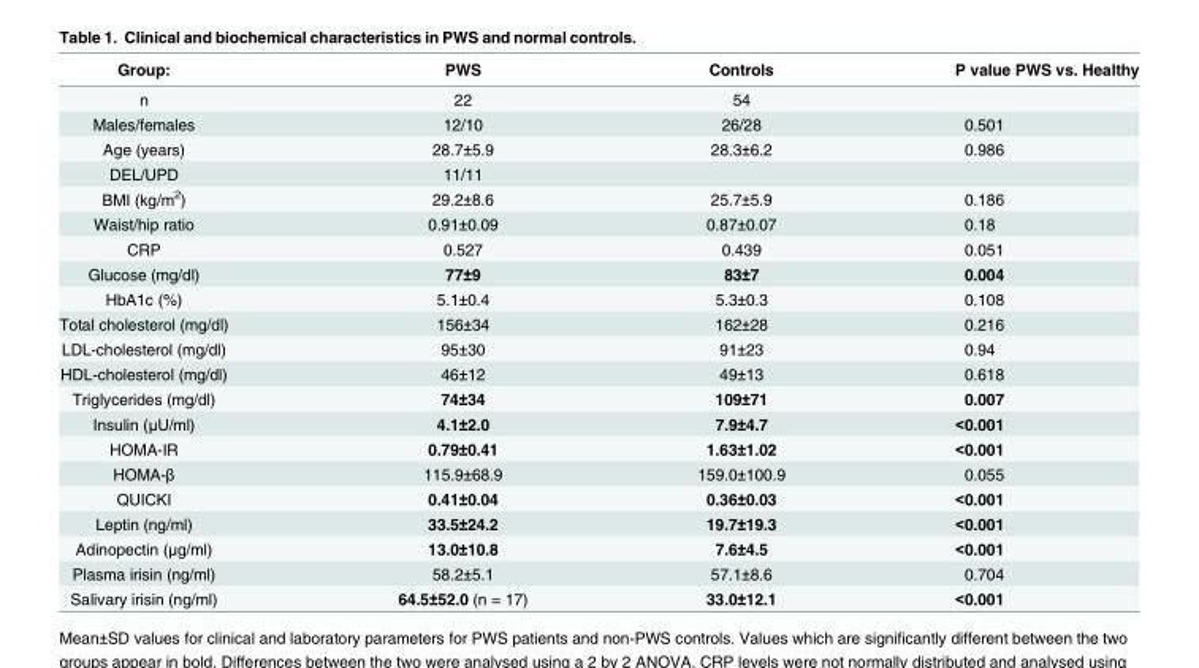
<table><thead><tr><td>Group:</td><td>PWS</td><td>Controls</td><td>P value PWS vs. Healthy</td></tr></thead><tbody><tr><td>n</td><td>22</td><td>54</td><td></td></tr><tr><td>Males/females</td><td>12/10</td><td>26/28</td><td>0.501</td></tr><tr><td>Age (years)</td><td>28.7±5.9</td><td>28.3±6.2</td><td>0.986</td></tr><tr><td>DEL/UPD</td><td>11/11</td><td></td><td></td></tr><tr><td>BMI (kg/m<sup>2</sup>)</td><td>29.2±8.6</td><td>25.7±5.9</td><td>0.186</td></tr><tr><td>Waist/hip ratio</td><td>0.91±0.09</td><td>0.87±0.07</td><td>0.18</td></tr><tr><td>CRP</td><td>0.527</td><td>0.439</td><td>0.051</td></tr><tr><td>Glucose (mg/dl)</td><td>77±9</td><td>83±7</td><td>0.004</td></tr><tr><td>HbA1c (%)</td><td>5.1±0.4</td><td>5.3±0.3</td><td>0.108</td></tr><tr><td>Total cholesterol (mg/dl)</td><td>156±34</td><td>162±28</td><td>0.216</td></tr><tr><td>LDL-cholesterol (mg/dl)</td><td>95±30</td><td>91±23</td><td>0.94</td></tr><tr><td>HDL-cholesterol (mg/dl)</td><td>46±12</td><td>49±13</td><td>0.618</td></tr><tr><td>Triglycerides (mg/dl)</td><td>74±34</td><td>109±71</td><td>0.007</td></tr><tr><td>Insulin (μU/ml)</td><td>4.1±2.0</td><td>7.9±4.7</td><td>&lt;0.001</td></tr><tr><td>HOMA-IR</td><td>0.79±0.41</td><td>1.63±1.02</td><td>&lt;0.001</td></tr><tr><td>HOMA-β</td><td>115.9±68.9</td><td>159.0±100.9</td><td>0.055</td></tr><tr><td>QUICKI</td><td>0.41±0.04</td><td>0.36±0.03</td><td>&lt;0.001</td></tr><tr><td>Leptin (ng/ml)</td><td>33.5±24.2</td><td>19.7±19.3</td><td>&lt;0.001</td></tr><tr><td>Adinopectin (μg/ml)</td><td>13.0±10.8</td><td>7.6±4.5</td><td>&lt;0.001</td></tr><tr><td>Plasma irisin (ng/ml)</td><td>58.2±5.1</td><td>57.1±8.6</td><td>0.704</td></tr><tr><td>Salivary irisin (ng/ml)</td><td>64.5±52.0 (n = 17)</td><td>33.0±12.1</td><td>&lt;0.001</td></tr></tbody></table>